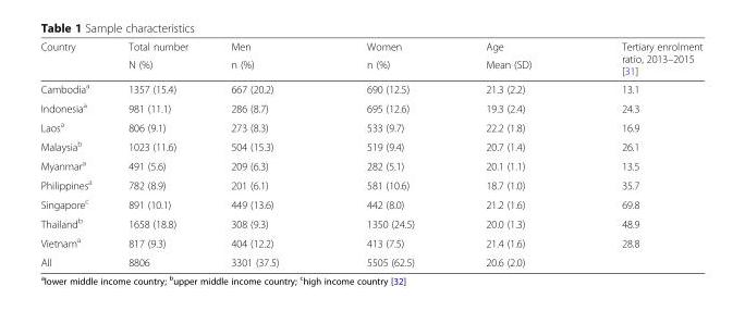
<table><thead><tr><td rowspan="2">Country</td><td rowspan="2">Total number N (%)</td><td rowspan="2">Men n (%)</td><td rowspan="2">Women n (%)</td><td rowspan="2">Age Mean (SD)</td><td rowspan="2">Tertiary enrolment ratio, 2013–2015 [31]</td></tr><tr></tr></thead><tbody><tr><td>Cambodia<sup>a</sup></td><td>1357 (15.4)</td><td>667 (20.2)</td><td>690 (12.5)</td><td>21.3 (2.2)</td><td>13.1</td></tr><tr><td>Indonesia<sup>a</sup></td><td>981 (11.1)</td><td>286 (8.7)</td><td>695 (12.6)</td><td>19.3 (2.4)</td><td>24.3</td></tr><tr><td>Laos<sup>a</sup></td><td>806 (9.1)</td><td>273 (8.3)</td><td>533 (9.7)</td><td>22.2 (1.8)</td><td>16.9</td></tr><tr><td>Malaysia<sup>b</sup></td><td>1023 (11.6)</td><td>504 (15.3)</td><td>519 (9.4)</td><td>20.7 (1.4)</td><td>26.1</td></tr><tr><td>Myanmar<sup>a</sup></td><td>491 (5.6)</td><td>209 (6.3)</td><td>282 (5.1)</td><td>20.1 (1.1)</td><td>13.5</td></tr><tr><td>Philippines<sup>a</sup></td><td>782 (8.9)</td><td>201 (6.1)</td><td>581 (10.6)</td><td>18.7 (1.0)</td><td>35.7</td></tr><tr><td>Singapore<sup>c</sup></td><td>891 (10.1)</td><td>449 (13.6)</td><td>442 (8.0)</td><td>21.2 (1.6)</td><td>69.8</td></tr><tr><td>Thailand<sup>b</sup></td><td>1658 (18.8)</td><td>308 (9.3)</td><td>1350 (24.5)</td><td>20.0 (1.3)</td><td>48.9</td></tr><tr><td>Vietnam<sup>a</sup></td><td>817 (9.3)</td><td>404 (12.2)</td><td>413 (7.5)</td><td>21.4 (1.6)</td><td>28.8</td></tr><tr><td>All</td><td>8806</td><td>3301 (37.5)</td><td>5505 (62.5)</td><td>20.6 (2.0)</td><td></td></tr></tbody></table>